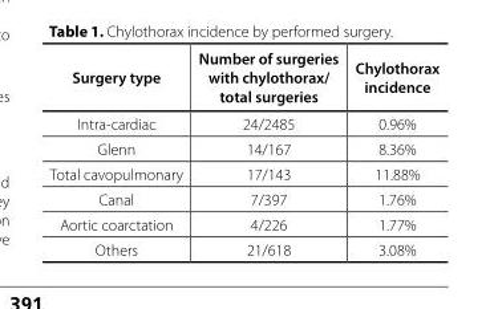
<table><thead><tr><td>Surgery type</td><td>Number of surgeries with chylothorax/ total surgeries</td><td>Chylothorax incidence</td></tr></thead><tbody><tr><td>Intra-cardiac</td><td>24/2485</td><td>0.96%</td></tr><tr><td>Glenn</td><td>14/167</td><td>8.36%</td></tr><tr><td>Total cavopulmonary</td><td>17/143</td><td>11.88%</td></tr><tr><td>Canal</td><td>7/397</td><td>1.76%</td></tr><tr><td>Aortic coarctation</td><td>4/226</td><td>1.77%</td></tr><tr><td>Others</td><td>21/618</td><td>3.08%</td></tr></tbody></table>